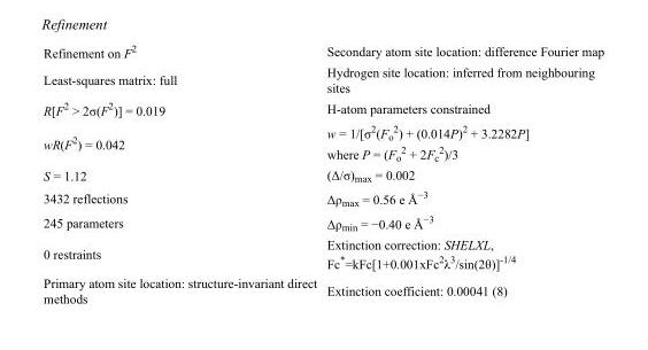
<table><tbody><tr><td>Refinement on F<sup>2</sup></td><td>Secondary atom site location: difference Fourier map</td></tr><tr><td>Least-squares matrix: full</td><td>Hydrogen site location: inferred from neighbouring sites</td></tr><tr><td>R[F<sup>2</sup> &gt; 2σ(F<sup>2</sup>)] = 0.019</td><td>H-atom parameters constrained</td></tr><tr><td>wR(F<sup>2</sup>) = 0.042</td><td>w = 1/[σ<sup>2</sup>(F<sub>o</sub> <sup>2</sup>) + (0.014P)<sup>2</sup> + 3.2282P] where P = (F<sub>o</sub> <sup>2</sup> + 2F<sub>c</sub> <sup>2</sup>)/3</td></tr><tr><td>S = 1.12</td><td>(Δ/σ)<sub>max</sub> = 0.002</td></tr><tr><td>3432 reflections</td><td>Δρ<sub>max</sub> = 0.56 e Å<sup>−3</sup></td></tr><tr><td>245 parameters</td><td>Δρ<sub>min</sub> = −0.40 e Å<sup>−3</sup></td></tr><tr><td>0 restraints</td><td>Extinction correction: SHELXL, Fc*=kFc[1+0.001xFc<sup>2</sup>λ<sup>3</sup>/sin(2θ)]<sup>-1/4</sup></td></tr><tr><td>Primary atom site location: structure-invariant direct methods</td><td>Extinction coefficient: 0.00041 (8)</td></tr></tbody></table>